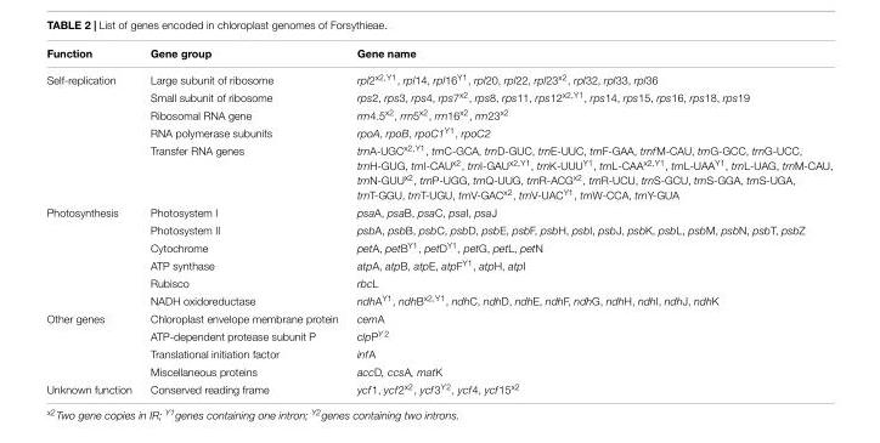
<table><thead><tr><td>Function</td><td>Gene group</td><td>Gene name</td></tr></thead><tbody><tr><td rowspan="5">Self-replication</td><td>Large subunit of ribosome</td><td>rpl2<sup>x2,Y1</sup>, rpl14, rpl16<sup>Y1</sup>, rpl20, rpl22, rpl23<sup>x2</sup>, rpl32, rpl33, rpl36</td></tr><tr><td>Small subunit of ribosome</td><td>rps2, rps3, rps4, rps7<sup>x2</sup>, rps8, rps11, rps12<sup>x2,Y1</sup>, rps14, rps15, rps16, rps18, rps19</td></tr><tr><td>Ribosomal RNA gene</td><td>rrn4.5<sup>x2</sup>, rrn5<sup>x2</sup>, rrn16<sup>x2</sup>, rrn23<sup>x2</sup></td></tr><tr><td>RNA polymerase subunits</td><td>rpoA, rpoB, rpoC1<sup>Y1</sup>, rpoC2</td></tr><tr><td>Transfer RNA genes</td><td>trnA-UGCx2,Y1, trnC-GCA, trnD-GUC, trnE-UUC, trnF-GAA, trnfM-CAU, trnG-GCC, trnG-UCC, trnH-GUG, trnI-CAUx2, trnI-GAUx2,Y1, trnK-UUUY1, trnL-CAAx2,Y1, trnL-UAAY1, trnL-UAG, trnM-CAU, trnN-GUUx2, trnP-UGG, trnQ-UUG, trnR-ACGx2, trnR-UCU, trnS-GCU, trnS-GGA, trnS-UGA, trnT-GGU, trnT-UGU, trnV-GACx2, trnV-UACY1, trnW-CCA, trnY-GUA</td></tr><tr><td rowspan="6">Photosynthesis</td><td>Photosystem I</td><td>psaA, psaB, psaC, psaI, psaJ</td></tr><tr><td>Photosystem II</td><td>psbA, psbB, psbC, psbD, psbE, psbF, psbH, psbI, psbJ, psbK, psbL, psbM, psbN, psbT, psbZ</td></tr><tr><td>Cytochrome</td><td>petA, petB<sup>Y1</sup>, petD<sup>Y1</sup>, petG, petL, petN</td></tr><tr><td>ATP synthase</td><td>atpA, atpB, atpE, atpF<sup>Y1</sup>, atpH, atpI</td></tr><tr><td>Rubisco</td><td>rbcL</td></tr><tr><td>NADH oxidoreductase</td><td>ndhA<sup>Y1</sup>, ndhB<sup>x2,Y1</sup>, ndhC, ndhD, ndhE, ndhF, ndhG, ndhH, ndhI, ndhJ, ndhK</td></tr><tr><td rowspan="4">Other genes</td><td>Chloroplast envelope membrane protein</td><td>cemA</td></tr><tr><td>ATP-dependent protease subunit P</td><td>clpP<sup>Y 2</sup></td></tr><tr><td>Translational initiation factor</td><td>infA</td></tr><tr><td>Miscellaneous proteins</td><td>accD, ccsA, matK</td></tr><tr><td>Unknown function</td><td>Conserved reading frame</td><td>ycf1, ycf2<sup>x2</sup>, ycf3<sup>Y2</sup>, ycf4, ycf15<sup>x2</sup></td></tr></tbody></table>